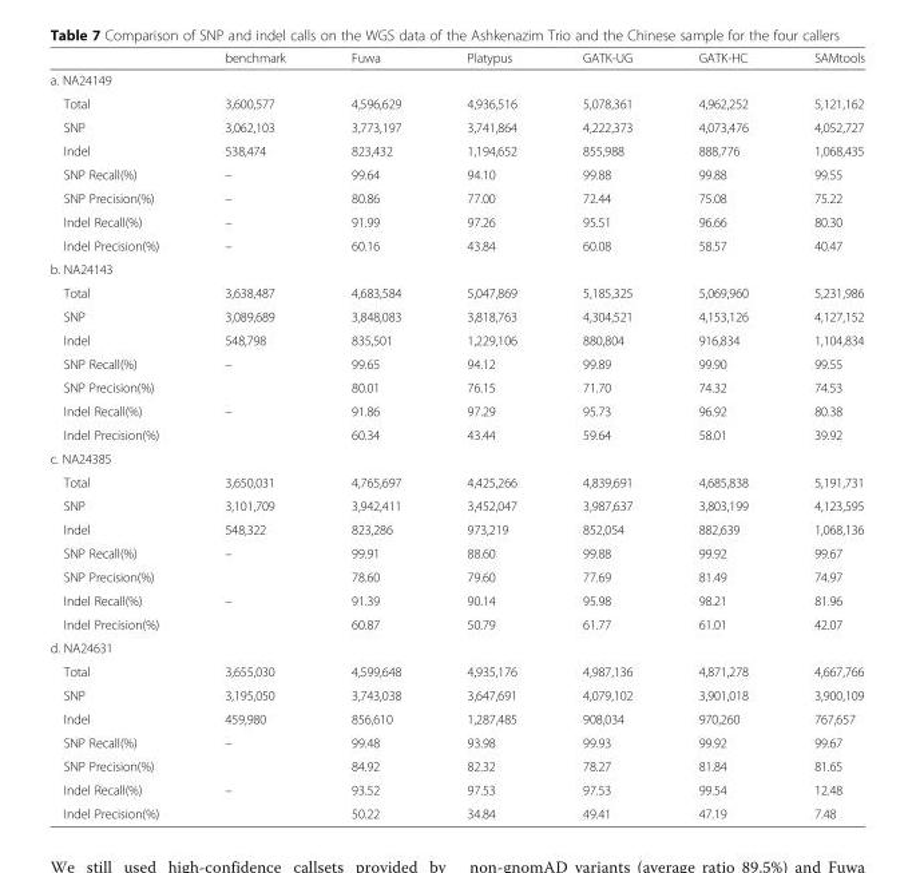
<table><thead><tr><td></td><td>benchmark</td><td>Fuwa</td><td>Platypus</td><td>GATK-UG</td><td>GATK-HC</td><td>SAMtools</td></tr></thead><tbody><tr><td colspan="7">a. NA24149</td></tr><tr><td>Total</td><td>3,600,577</td><td>4,596,629</td><td>4,936,516</td><td>5,078,361</td><td>4,962,252</td><td>5,121,162</td></tr><tr><td>SNP</td><td>3,062,103</td><td>3,773,197</td><td>3,741,864</td><td>4,222,373</td><td>4,073,476</td><td>4,052,727</td></tr><tr><td>Indel</td><td>538,474</td><td>823,432</td><td>1,194,652</td><td>855,988</td><td>888,776</td><td>1,068,435</td></tr><tr><td>SNP Recall(%)</td><td>–</td><td>99.64</td><td>94.10</td><td>99.88</td><td>99.88</td><td>99.55</td></tr><tr><td>SNP Precision(%)</td><td>–</td><td>80.86</td><td>77.00</td><td>72.44</td><td>75.08</td><td>75.22</td></tr><tr><td>Indel Recall(%)</td><td>–</td><td>91.99</td><td>97.26</td><td>95.51</td><td>96.66</td><td>80.30</td></tr><tr><td>Indel Precision(%)</td><td>–</td><td>60.16</td><td>43.84</td><td>60.08</td><td>58.57</td><td>40.47</td></tr><tr><td colspan="7">b. NA24143</td></tr><tr><td>Total</td><td>3,638,487</td><td>4,683,584</td><td>5,047,869</td><td>5,185,325</td><td>5,069,960</td><td>5,231,986</td></tr><tr><td>SNP</td><td>3,089,689</td><td>3,848,083</td><td>3,818,763</td><td>4,304,521</td><td>4,153,126</td><td>4,127,152</td></tr><tr><td>Indel</td><td>548,798</td><td>835,501</td><td>1,229,106</td><td>880,804</td><td>916,834</td><td>1,104,834</td></tr><tr><td>SNP Recall(%)</td><td>–</td><td>99.65</td><td>94.12</td><td>99.89</td><td>99.90</td><td>99.55</td></tr><tr><td>SNP Precision(%)</td><td></td><td>80.01</td><td>76.15</td><td>71.70</td><td>74.32</td><td>74.53</td></tr><tr><td>Indel Recall(%)</td><td>–</td><td>91.86</td><td>97.29</td><td>95.73</td><td>96.92</td><td>80.38</td></tr><tr><td>Indel Precision(%)</td><td></td><td>60.34</td><td>43.44</td><td>59.64</td><td>58.01</td><td>39.92</td></tr><tr><td colspan="7">c. NA24385</td></tr><tr><td>Total</td><td>3,650,031</td><td>4,765,697</td><td>4,425,266</td><td>4,839,691</td><td>4,685,838</td><td>5,191,731</td></tr><tr><td>SNP</td><td>3,101,709</td><td>3,942,411</td><td>3,452,047</td><td>3,987,637</td><td>3,803,199</td><td>4,123,595</td></tr><tr><td>Indel</td><td>548,322</td><td>823,286</td><td>973,219</td><td>852,054</td><td>882,639</td><td>1,068,136</td></tr><tr><td>SNP Recall(%)</td><td>–</td><td>99.91</td><td>88.60</td><td>99.88</td><td>99.92</td><td>99.67</td></tr><tr><td>SNP Precision(%)</td><td></td><td>78.60</td><td>79.60</td><td>77.69</td><td>81.49</td><td>74.97</td></tr><tr><td>Indel Recall(%)</td><td>–</td><td>91.39</td><td>90.14</td><td>95.98</td><td>98.21</td><td>81.96</td></tr><tr><td>Indel Precision(%)</td><td></td><td>60.87</td><td>50.79</td><td>61.77</td><td>61.01</td><td>42.07</td></tr><tr><td colspan="7">d. NA24631</td></tr><tr><td>Total</td><td>3,655,030</td><td>4,599,648</td><td>4,935,176</td><td>4,987,136</td><td>4,871,278</td><td>4,667,766</td></tr><tr><td>SNP</td><td>3,195,050</td><td>3,743,038</td><td>3,647,691</td><td>4,079,102</td><td>3,901,018</td><td>3,900,109</td></tr><tr><td>Indel</td><td>459,980</td><td>856,610</td><td>1,287,485</td><td>908,034</td><td>970,260</td><td>767,657</td></tr><tr><td>SNP Recall(%)</td><td>–</td><td>99.48</td><td>93.98</td><td>99.93</td><td>99.92</td><td>99.67</td></tr><tr><td>SNP Precision(%)</td><td></td><td>84.92</td><td>82.32</td><td>78.27</td><td>81.84</td><td>81.65</td></tr><tr><td>Indel Recall(%)</td><td>–</td><td>93.52</td><td>97.53</td><td>97.53</td><td>99.54</td><td>12.48</td></tr><tr><td>Indel Precision(%)</td><td></td><td>50.22</td><td>34.84</td><td>49.41</td><td>47.19</td><td>7.48</td></tr></tbody></table>